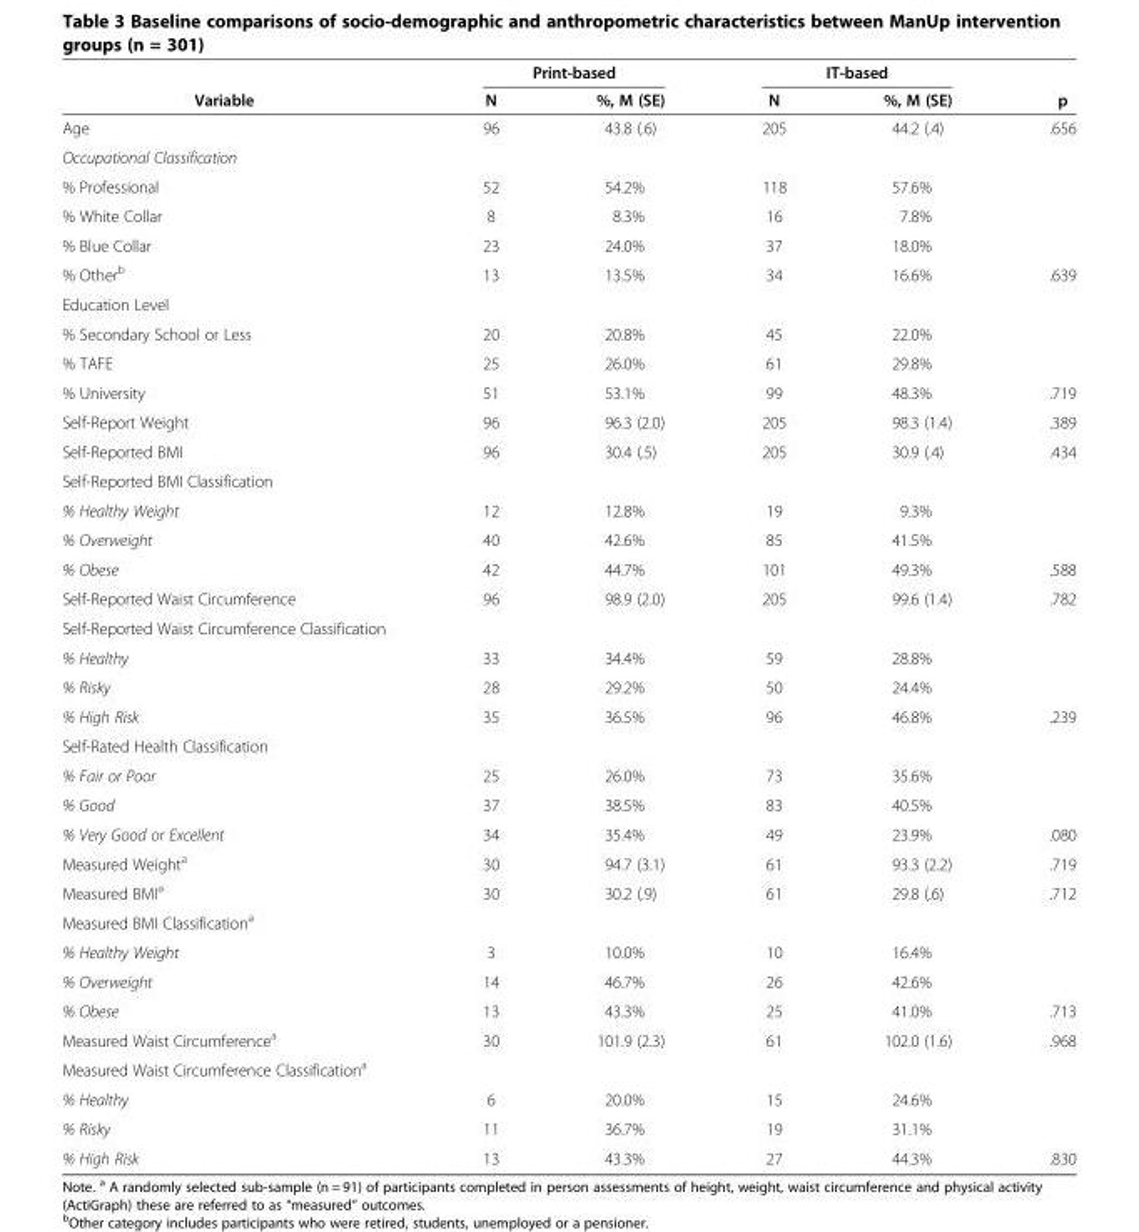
<table><thead><tr><td rowspan="2">Variable</td><td colspan="2">Print-based</td><td colspan="2">IT-based</td><td rowspan="2">p</td></tr><tr><td>N</td><td>%, M (SE)</td><td>N</td><td>%, M (SE)</td></tr></thead><tbody><tr><td>Age</td><td>96</td><td>43.8 (.6)</td><td>205</td><td>44.2 (.4)</td><td>.656</td></tr><tr><td colspan="6">Occupational Classification</td></tr><tr><td>% Professional</td><td>52</td><td>54.2%</td><td>118</td><td>57.6%</td><td></td></tr><tr><td>% White Collar</td><td>8</td><td>8.3%</td><td>16</td><td>7.8%</td><td></td></tr><tr><td>% Blue Collar</td><td>23</td><td>24.0%</td><td>37</td><td>18.0%</td><td></td></tr><tr><td>% Other<sup>b</sup></td><td>13</td><td>13.5%</td><td>34</td><td>16.6%</td><td>.639</td></tr><tr><td colspan="6">Education Level</td></tr><tr><td>% Secondary School or Less</td><td>20</td><td>20.8%</td><td>45</td><td>22.0%</td><td></td></tr><tr><td>% TAFE</td><td>25</td><td>26.0%</td><td>61</td><td>29.8%</td><td></td></tr><tr><td>% University</td><td>51</td><td>53.1%</td><td>99</td><td>48.3%</td><td>.719</td></tr><tr><td>Self-Report Weight</td><td>96</td><td>96.3 (2.0)</td><td>205</td><td>98.3 (1.4)</td><td>.389</td></tr><tr><td>Self-Reported BMI</td><td>96</td><td>30.4 (.5)</td><td>205</td><td>30.9 (.4)</td><td>.434</td></tr><tr><td colspan="6">Self-Reported BMI Classification</td></tr><tr><td>% Healthy Weight</td><td>12</td><td>12.8%</td><td>19</td><td>9.3%</td><td></td></tr><tr><td>% Overweight</td><td>40</td><td>42.6%</td><td>85</td><td>41.5%</td><td></td></tr><tr><td>% Obese</td><td>42</td><td>44.7%</td><td>101</td><td>49.3%</td><td>.588</td></tr><tr><td>Self-Reported Waist Circumference</td><td>96</td><td>98.9 (2.0)</td><td>205</td><td>99.6 (1.4)</td><td>.782</td></tr><tr><td colspan="6">Self-Reported Waist Circumference Classification</td></tr><tr><td>% Healthy</td><td>33</td><td>34.4%</td><td>59</td><td>28.8%</td><td></td></tr><tr><td>% Risky</td><td>28</td><td>29.2%</td><td>50</td><td>24.4%</td><td></td></tr><tr><td>% High Risk</td><td>35</td><td>36.5%</td><td>96</td><td>46.8%</td><td>.239</td></tr><tr><td colspan="6">Self-Rated Health Classification</td></tr><tr><td>% Fair or Poor</td><td>25</td><td>26.0%</td><td>73</td><td>35.6%</td><td></td></tr><tr><td>% Good</td><td>37</td><td>38.5%</td><td>83</td><td>40.5%</td><td></td></tr><tr><td>% Very Good or Excellent</td><td>34</td><td>35.4%</td><td>49</td><td>23.9%</td><td>.080</td></tr><tr><td>Measured Weight<sup>a</sup></td><td>30</td><td>94.7 (3.1)</td><td>61</td><td>93.3 (2.2)</td><td>.719</td></tr><tr><td>Measured BMI<sup>a</sup></td><td>30</td><td>30.2 (.9)</td><td>61</td><td>29.8 (.6)</td><td>.712</td></tr><tr><td colspan="6">Measured BMI Classification<sup>a</sup></td></tr><tr><td>% Healthy Weight</td><td>3</td><td>10.0%</td><td>10</td><td>16.4%</td><td></td></tr><tr><td>% Overweight</td><td>14</td><td>46.7%</td><td>26</td><td>42.6%</td><td></td></tr><tr><td>% Obese</td><td>13</td><td>43.3%</td><td>25</td><td>41.0%</td><td>.713</td></tr><tr><td>Measured Waist Circumference<sup>a</sup></td><td>30</td><td>101.9 (2.3)</td><td>61</td><td>102.0 (1.6)</td><td>.968</td></tr><tr><td colspan="6">Measured Waist Circumference Classification<sup>a</sup></td></tr><tr><td>% Healthy</td><td>6</td><td>20.0%</td><td>15</td><td>24.6%</td><td></td></tr><tr><td>% Risky</td><td>11</td><td>36.7%</td><td>19</td><td>31.1%</td><td></td></tr><tr><td>% High Risk</td><td>13</td><td>43.3%</td><td>27</td><td>44.3%</td><td>.830</td></tr></tbody></table>